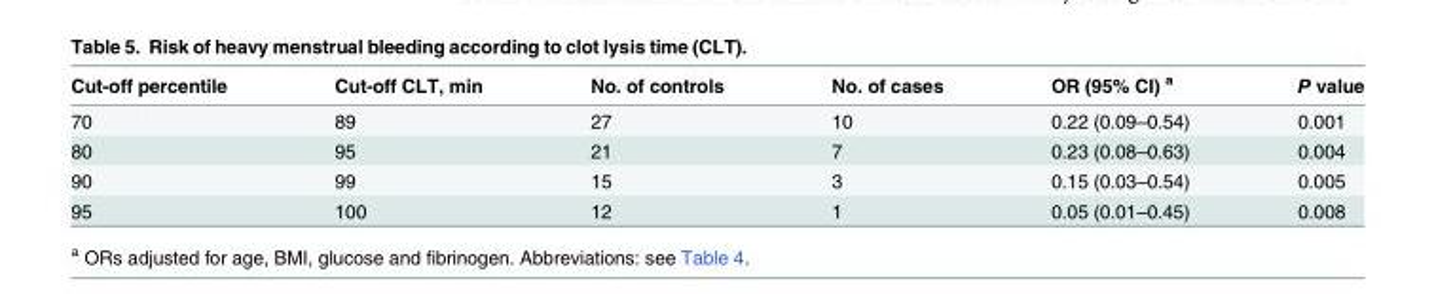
<table><thead><tr><td>Cut-off percentile</td><td>Cut-off CLT, min</td><td>No. of controls</td><td>No. of cases</td><td>OR (95% CI) <sup>a</sup></td><td>P value</td></tr></thead><tbody><tr><td>70</td><td>89</td><td>27</td><td>10</td><td>0.22 (0.09–0.54)</td><td>0.001</td></tr><tr><td>80</td><td>95</td><td>21</td><td>7</td><td>0.23 (0.08–0.63)</td><td>0.004</td></tr><tr><td>90</td><td>99</td><td>15</td><td>3</td><td>0.15 (0.03–0.54)</td><td>0.005</td></tr><tr><td>95</td><td>100</td><td>12</td><td>1</td><td>0.05 (0.01–0.45)</td><td>0.008</td></tr></tbody></table>